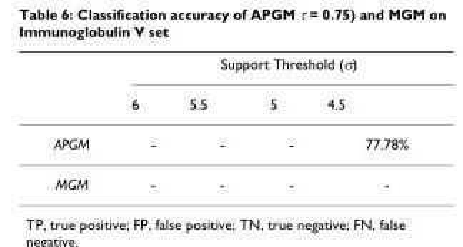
<table><thead><tr><td rowspan="2"></td><td colspan="4">Support Threshold (σ)</td></tr><tr><td>6</td><td>5.5</td><td>5</td><td>4.5</td></tr></thead><tbody><tr><td>APGM</td><td>-</td><td>-</td><td>-</td><td>77.78%</td></tr><tr><td>MGM</td><td>-</td><td>-</td><td>-</td><td>-</td></tr></tbody></table>